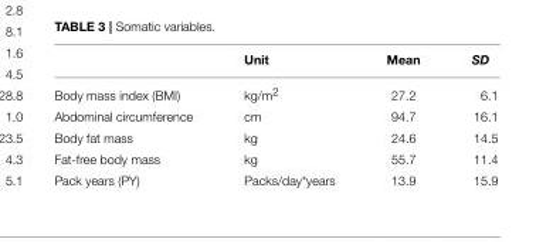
<table><thead><tr><td></td><td>Unit</td><td>Mean</td><td>SD</td></tr></thead><tbody><tr><td>Body mass index (BMI)</td><td>kg/m<sup>2</sup></td><td>27.2</td><td>6.1</td></tr><tr><td>Abdominal circumference</td><td>cm</td><td>94.7</td><td>16.1</td></tr><tr><td>Body fat mass</td><td>kg</td><td>24.6</td><td>14.5</td></tr><tr><td>Fat-free body mass</td><td>kg</td><td>55.7</td><td>11.4</td></tr><tr><td>Pack years (PY)</td><td>Packs/day*years</td><td>13.9</td><td>15.9</td></tr></tbody></table>